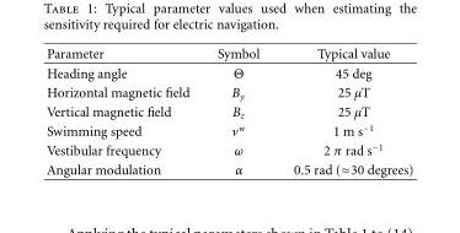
<table><thead><tr><td>Parameter</td><td>Symbol</td><td>Typical value</td></tr></thead><tbody><tr><td>Heading angle</td><td>Θ</td><td>45 deg</td></tr><tr><td>Horizontal magnetic field</td><td>B<sub>y</sub></td><td>25 μT</td></tr><tr><td>Vertical magnetic field</td><td>B<sub>z</sub></td><td>25 μT</td></tr><tr><td>Swimming speed</td><td>v<sup>w</sup></td><td>1 m s<sup>−1</sup></td></tr><tr><td>Vestibular frequency</td><td>ω</td><td>2 π rad s<sup>−1</sup></td></tr><tr><td>Angular modulation</td><td>α</td><td>0.5 rad (≈30 degrees)</td></tr></tbody></table>